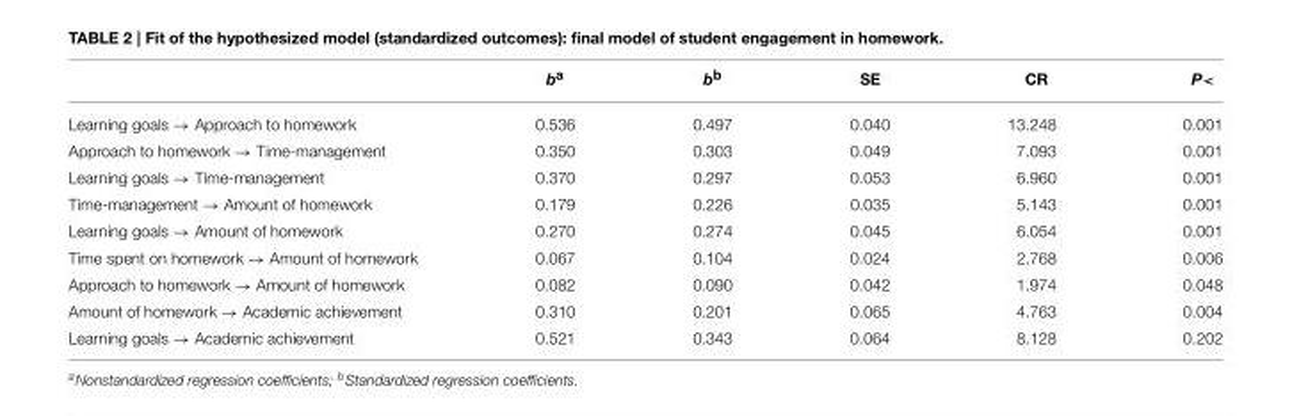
<table><thead><tr><td></td><td>b<sup>a</sup></td><td>b<sup>b</sup></td><td>SE</td><td>CR</td><td>P&lt;</td></tr></thead><tbody><tr><td>Learning goals → Approach to homework</td><td>0.536</td><td>0.497</td><td>0.040</td><td>13.248</td><td>0.001</td></tr><tr><td>Approach to homework → Time-management</td><td>0.350</td><td>0.303</td><td>0.049</td><td>7.093</td><td>0.001</td></tr><tr><td>Learning goals → Time-management</td><td>0.370</td><td>0.297</td><td>0.053</td><td>6.960</td><td>0.001</td></tr><tr><td>Time-management → Amount of homework</td><td>0.179</td><td>0.226</td><td>0.035</td><td>5.143</td><td>0.001</td></tr><tr><td>Learning goals → Amount of homework</td><td>0.270</td><td>0.274</td><td>0.045</td><td>6.054</td><td>0.001</td></tr><tr><td>Time spent on homework → Amount of homework</td><td>0.067</td><td>0.104</td><td>0.024</td><td>2.768</td><td>0.006</td></tr><tr><td>Approach to homework → Amount of homework</td><td>0.082</td><td>0.090</td><td>0.042</td><td>1.974</td><td>0.048</td></tr><tr><td>Amount of homework → Academic achievement</td><td>0.310</td><td>0.201</td><td>0.065</td><td>4.763</td><td>0.004</td></tr><tr><td>Learning goals → Academic achievement</td><td>0.521</td><td>0.343</td><td>0.064</td><td>8.128</td><td>0.202</td></tr></tbody></table>